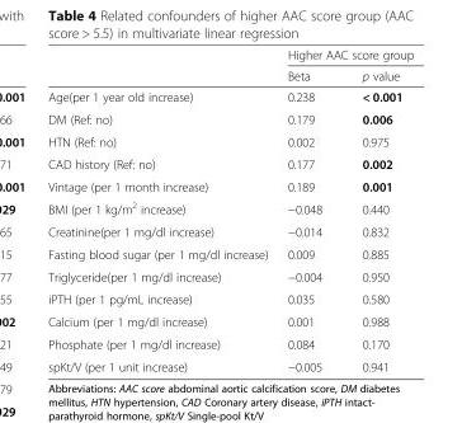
<table><thead><tr><td rowspan="2"></td><td colspan="2">Higher AAC score group</td></tr><tr><td>Beta</td><td>p value</td></tr></thead><tbody><tr><td>Age(per 1 year old increase)</td><td>0.238</td><td>&lt; 0.001</td></tr><tr><td>DM (Ref: no)</td><td>0.179</td><td>0.006</td></tr><tr><td>HTN (Ref: no)</td><td>0.002</td><td>0.975</td></tr><tr><td>CAD history (Ref: no)</td><td>0.177</td><td>0.002</td></tr><tr><td>Vintage (per 1 month increase)</td><td>0.189</td><td>0.001</td></tr><tr><td>BMI (per 1 kg/m<sup>2</sup> increase)</td><td>−0.048</td><td>0.440</td></tr><tr><td>Creatinine(per 1 mg/dl increase)</td><td>−0.014</td><td>0.832</td></tr><tr><td>Fasting blood sugar (per 1 mg/dl increase)</td><td>0.009</td><td>0.885</td></tr><tr><td>Triglyceride(per 1 mg/dl increase)</td><td>−0.004</td><td>0.950</td></tr><tr><td>iPTH (per 1 pg/mL increase)</td><td>0.035</td><td>0.580</td></tr><tr><td>Calcium (per 1 mg/dl increase)</td><td>0.001</td><td>0.988</td></tr><tr><td>Phosphate (per 1 mg/dl increase)</td><td>0.084</td><td>0.170</td></tr><tr><td>spKt/V (per 1 unit increase)</td><td>−0.005</td><td>0.941</td></tr></tbody></table>